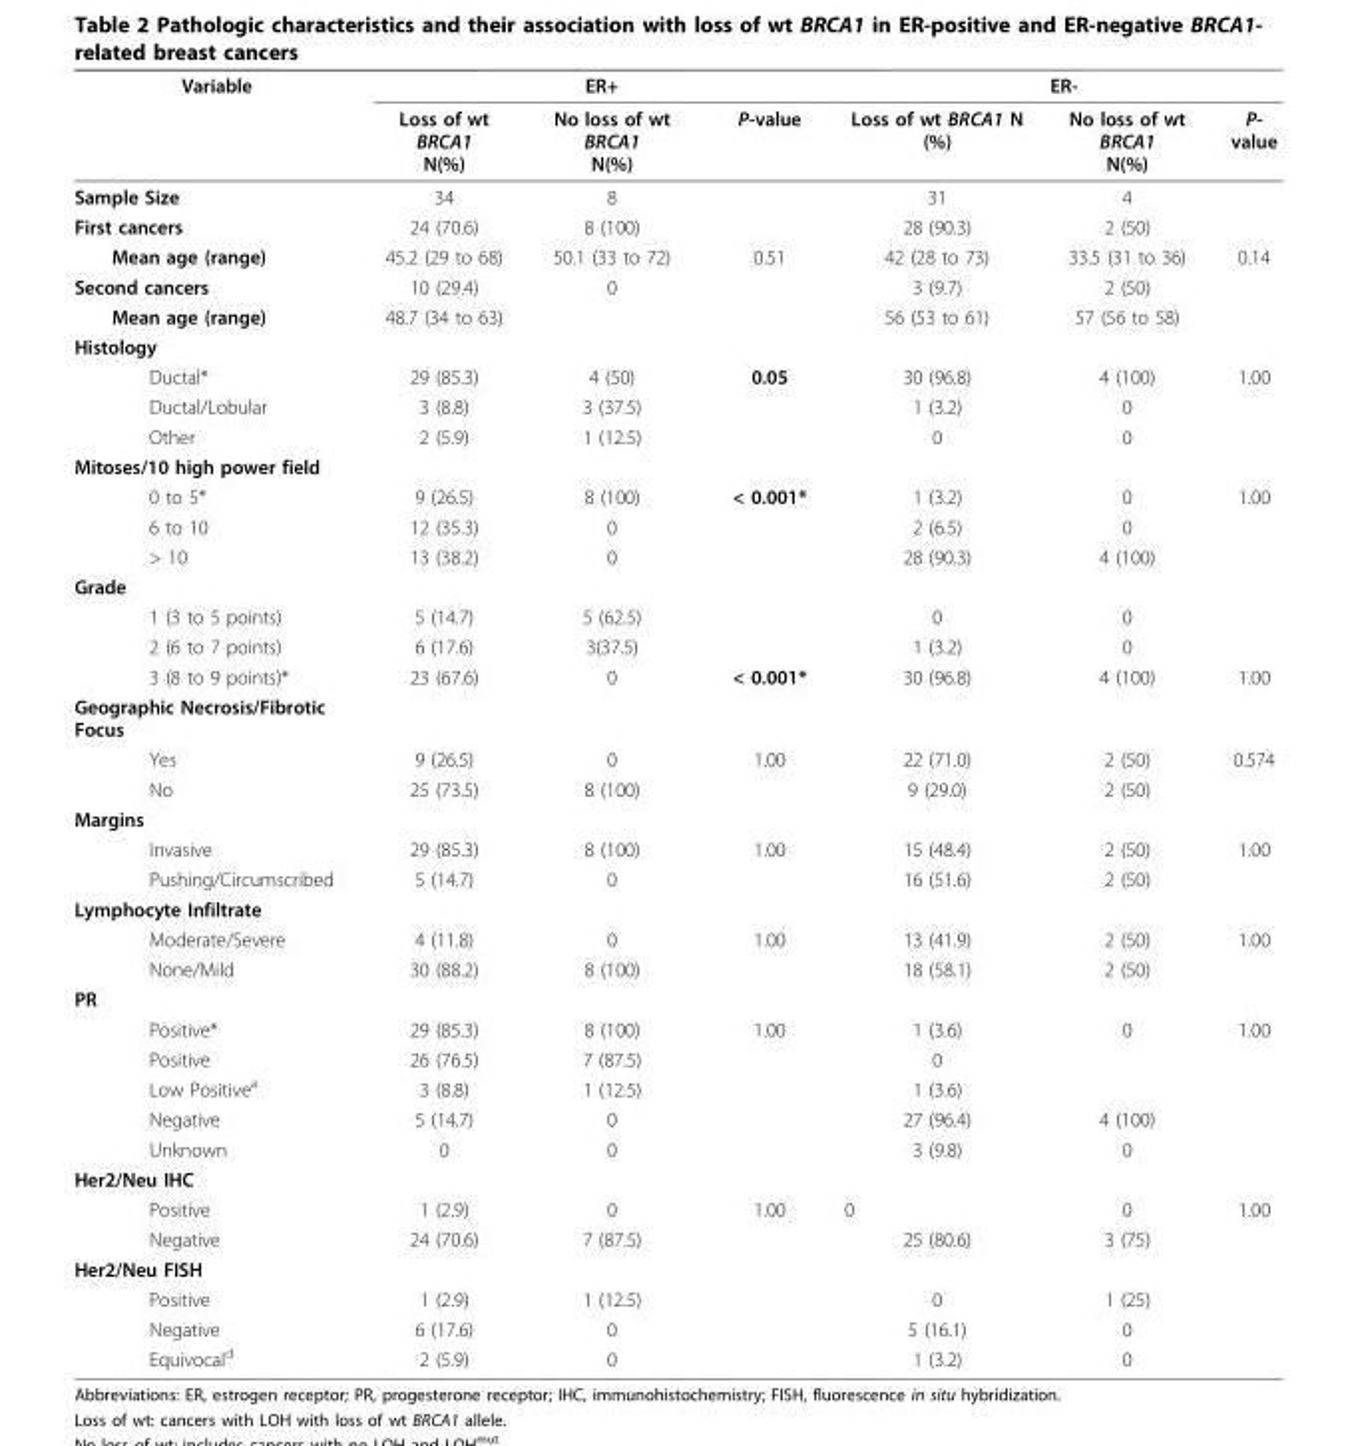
<table><thead><tr><td rowspan="2">Variable</td><td colspan="3">ER+</td><td colspan="3">ER-</td></tr><tr><td>Loss of wt BRCA1 N(%)</td><td>No loss of wt BRCA1 N(%)</td><td>P-value</td><td>Loss of wt BRCA1 N (%)</td><td>No loss of wt BRCA1 N(%)</td><td>P- value</td></tr></thead><tbody><tr><td>Sample Size</td><td>34</td><td>8</td><td></td><td>31</td><td>4</td><td></td></tr><tr><td>First cancers</td><td>24 (70.6)</td><td>8 (100)</td><td></td><td>28 (90.3)</td><td>2 (50)</td><td></td></tr><tr><td>Mean age (range)</td><td>45.2 (29 to 68)</td><td>50.1 (33 to 72)</td><td>0.51</td><td>42 (28 to 73)</td><td>33.5 (31 to 36)</td><td>0.14</td></tr><tr><td>Second cancers</td><td>10 (29.4)</td><td>0</td><td></td><td>3 (9.7)</td><td>2 (50)</td><td></td></tr><tr><td>Mean age (range)</td><td>48.7 (34 to 63)</td><td></td><td></td><td>56 (53 to 61)</td><td>57 (56 to 58)</td><td></td></tr><tr><td colspan="7">Histology</td></tr><tr><td>Ductal*</td><td>29 (85.3)</td><td>4 (50)</td><td>0.05</td><td>30 (96.8)</td><td>4 (100)</td><td>1.00</td></tr><tr><td>Ductal/Lobular</td><td>3 (8.8)</td><td>3 (37.5)</td><td></td><td>1 (3.2)</td><td>0</td><td></td></tr><tr><td>Other</td><td>2 (5.9)</td><td>1 (12.5)</td><td></td><td>0</td><td>0</td><td></td></tr><tr><td colspan="7">Mitoses/10 high power field</td></tr><tr><td>0 to 5*</td><td>9 (26.5)</td><td>8 (100)</td><td>&lt; 0.001*</td><td>1 (3.2)</td><td>0</td><td>1.00</td></tr><tr><td>6 to 10</td><td>12 (35.3)</td><td>0</td><td></td><td>2 (6.5)</td><td>0</td><td></td></tr><tr><td>&gt; 10</td><td>13 (38.2)</td><td>0</td><td></td><td>28 (90.3)</td><td>4 (100)</td><td></td></tr><tr><td colspan="7">Grade</td></tr><tr><td>1 (3 to 5 points)</td><td>5 (14.7)</td><td>5 (62.5)</td><td></td><td>0</td><td>0</td><td></td></tr><tr><td>2 (6 to 7 points)</td><td>6 (17.6)</td><td>3(37.5)</td><td></td><td>1 (3.2)</td><td>0</td><td></td></tr><tr><td>3 (8 to 9 points)*</td><td>23 (67.6)</td><td>0</td><td>&lt; 0.001*</td><td>30 (96.8)</td><td>4 (100)</td><td>1.00</td></tr><tr><td colspan="7">Geographic Necrosis/Fibrotic Focus</td></tr><tr><td>Yes</td><td>9 (26.5)</td><td>0</td><td>1.00</td><td>22 (71.0)</td><td>2 (50)</td><td>0.574</td></tr><tr><td>No</td><td>25 (73.5)</td><td>8 (100)</td><td></td><td>9 (29.0)</td><td>2 (50)</td><td></td></tr><tr><td colspan="7">Margins</td></tr><tr><td>Invasive</td><td>29 (85.3)</td><td>8 (100)</td><td>1.00</td><td>15 (48.4)</td><td>2 (50)</td><td>1.00</td></tr><tr><td>Pushing/Circumscribed</td><td>5 (14.7)</td><td>0</td><td></td><td>16 (51.6)</td><td>2 (50)</td><td></td></tr><tr><td colspan="7">Lymphocyte Infiltrate</td></tr><tr><td>Moderate/Severe</td><td>4 (11.8)</td><td>0</td><td>1.00</td><td>13 (41.9)</td><td>2 (50)</td><td>1.00</td></tr><tr><td>None/Mild</td><td>30 (88.2)</td><td>8 (100)</td><td></td><td>18 (58.1)</td><td>2 (50)</td><td></td></tr><tr><td colspan="7">PR</td></tr><tr><td>Positive*</td><td>29 (85.3)</td><td>8 (100)</td><td>1.00</td><td>1 (3.6)</td><td>0</td><td>1.00</td></tr><tr><td>Positive</td><td>26 (76.5)</td><td>7 (87.5)</td><td></td><td>0</td><td></td><td></td></tr><tr><td>Low Positive<sup>a</sup></td><td>3 (8.8)</td><td>1 (12.5)</td><td></td><td>1 (3.6)</td><td></td><td></td></tr><tr><td>Negative</td><td>5 (14.7)</td><td>0</td><td></td><td>27 (96.4)</td><td>4 (100)</td><td></td></tr><tr><td>Unknown</td><td>0</td><td>0</td><td></td><td>3 (9.8)</td><td>0</td><td></td></tr><tr><td colspan="7">Her2/Neu IHC</td></tr><tr><td>Positive</td><td>1 (2.9)</td><td>0</td><td>1.00</td><td>0</td><td>0</td><td>1.00</td></tr><tr><td>Negative</td><td>24 (70.6)</td><td>7 (87.5)</td><td></td><td>25 (80.6)</td><td>3 (75)</td><td></td></tr><tr><td colspan="7">Her2/Neu FISH</td></tr><tr><td>Positive</td><td>1 (2.9)</td><td>1 (12.5)</td><td></td><td>0</td><td>1 (25)</td><td></td></tr><tr><td>Negative</td><td>6 (17.6)</td><td>0</td><td></td><td>5 (16.1)</td><td>0</td><td></td></tr><tr><td>Equivocal<sup>d</sup></td><td>2 (5.9)</td><td>0</td><td></td><td>1 (3.2)</td><td>0</td><td></td></tr></tbody></table>